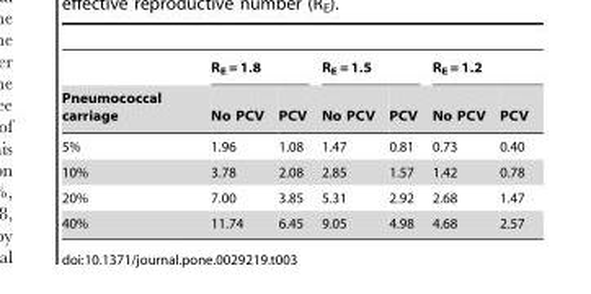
<table><thead><tr><td rowspan="2">Pneumococcal carriage</td><td colspan="2">R<sub>E</sub> = 1.8</td><td colspan="2">R<sub>E</sub> = 1.5</td><td colspan="2">R<sub>E</sub> = 1.2</td></tr><tr><td>No PCV</td><td>PCV</td><td>No PCV</td><td>PCV</td><td>No PCV</td><td>PCV</td></tr></thead><tbody><tr><td>5%</td><td>1.96</td><td>1.08</td><td>1.47</td><td>0.81</td><td>0.73</td><td>0.40</td></tr><tr><td>10%</td><td>3.78</td><td>2.08</td><td>2.85</td><td>1.57</td><td>1.42</td><td>0.78</td></tr><tr><td>20%</td><td>7.00</td><td>3.85</td><td>5.31</td><td>2.92</td><td>2.68</td><td>1.47</td></tr><tr><td>40%</td><td>11.74</td><td>6.45</td><td>9.05</td><td>4.98</td><td>4.68</td><td>2.57</td></tr></tbody></table>